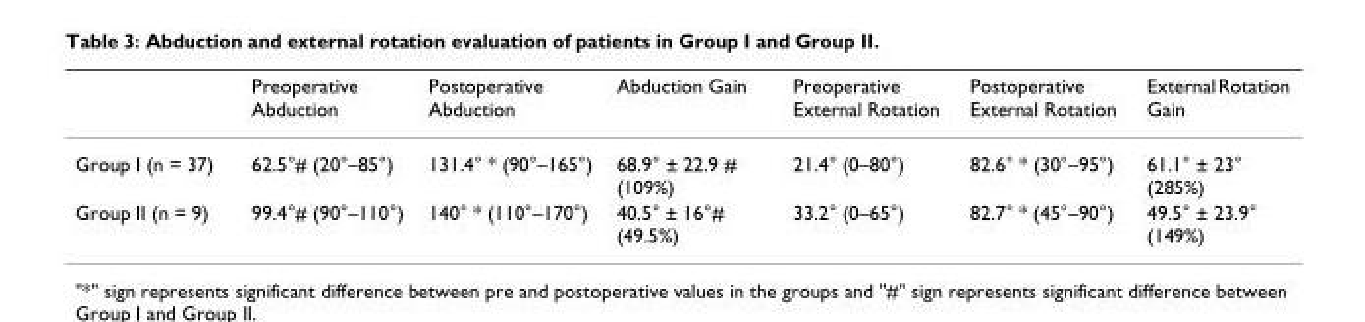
<table><thead><tr><td></td><td>Preoperative Abduction</td><td>Postoperative Abduction</td><td>Abduction Gain</td><td>Preoperative External Rotation</td><td>Postoperative External Rotation</td><td>External Rotation Gain</td></tr></thead><tbody><tr><td>Group I (n = 37)</td><td>62.5°# (20°–85°)</td><td>131.4° * (90°–165°)</td><td>68.9° ± 22.9 # (109%)</td><td>21.4° (0–80°)</td><td>82.6° * (30°–95°)</td><td>61.1° ± 23° (285%)</td></tr><tr><td>Group II (n = 9)</td><td>99.4°# (90°–110°)</td><td>140° * (110°–170°)</td><td>40.5° ± 16°# (49.5%)</td><td>33.2° (0–65°)</td><td>82.7° * (45°–90°)</td><td>49.5° ± 23.9° (149%)</td></tr></tbody></table>